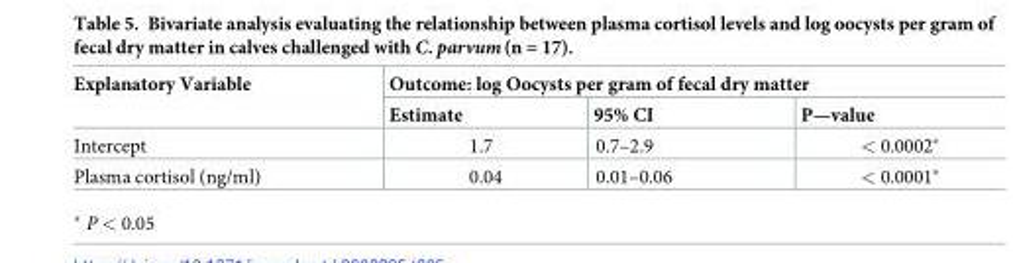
<table><thead><tr><td rowspan="2">Explanatory Variable</td><td colspan="3">Outcome: log Oocysts per gram of fecal dry matter</td></tr><tr><td>Estimate</td><td>95% CI</td><td>P—value</td></tr></thead><tbody><tr><td>Intercept</td><td>1.7</td><td>0.7–2.9</td><td>&lt; 0.0002*</td></tr><tr><td>Plasma cortisol (ng/ml)</td><td>0.04</td><td>0.01–0.06</td><td>&lt; 0.0001*</td></tr></tbody></table>